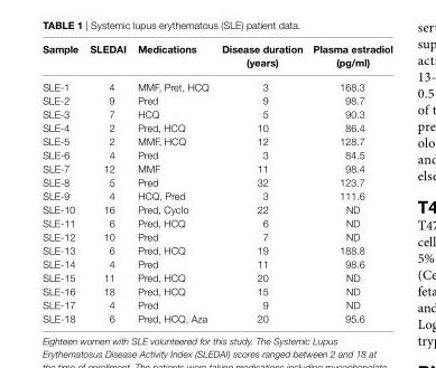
<table><thead><tr><td>sample</td><td>sleDai</td><td>Medications</td><td>Disease duration (years)</td><td>Plasma estradiol (pg/ml)</td></tr></thead><tbody><tr><td>SLE-1</td><td>4</td><td>MMF, Pret, HCQ</td><td>3</td><td>168.3</td></tr><tr><td>SLE-2</td><td>9</td><td>Pred</td><td>9</td><td>98.7</td></tr><tr><td>SLE-3</td><td>7</td><td>HCQ</td><td>5</td><td>90.3</td></tr><tr><td>SLE-4</td><td>2</td><td>Pred, HCQ</td><td>10</td><td>86.4</td></tr><tr><td>SLE-5</td><td>2</td><td>MMF, HCQ</td><td>12</td><td>128.7</td></tr><tr><td>SLE-6</td><td>4</td><td>Pred</td><td>3</td><td>84.5</td></tr><tr><td>SLE-7</td><td>12</td><td>MMF</td><td>11</td><td>98.4</td></tr><tr><td>SLE-8</td><td>5</td><td>Pred</td><td>32</td><td>123.7</td></tr><tr><td>SLE-9</td><td>4</td><td>HCQ, Pred</td><td>3</td><td>111.6</td></tr><tr><td>SLE-10</td><td>16</td><td>Pred, CycIo</td><td>22</td><td>ND</td></tr><tr><td>SLE-11</td><td>6</td><td>Pred, HCQ</td><td>6</td><td>ND</td></tr><tr><td>SLE-12</td><td>10</td><td>Pred</td><td>7</td><td>ND</td></tr><tr><td>SLE-13</td><td>6</td><td>Pred, HCQ</td><td>19</td><td>188.8</td></tr><tr><td>SLE-14</td><td>4</td><td>Pred</td><td>11</td><td>98.6</td></tr><tr><td>SLE-15</td><td>11</td><td>Pred, HCQ</td><td>20</td><td>ND</td></tr><tr><td>SLE-16</td><td>18</td><td>Pred, HCQ</td><td>15</td><td>ND</td></tr><tr><td>SLE-17</td><td>4</td><td>Pred</td><td>9</td><td>ND</td></tr><tr><td>SLE-18</td><td>6</td><td>Pred, HCQ, Aza</td><td>20</td><td>95.6</td></tr></tbody></table>